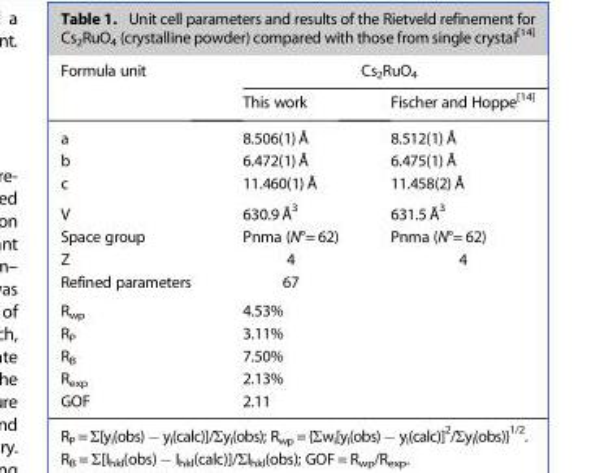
<table><thead><tr><td rowspan="2">Formula unit</td><td colspan="2">Cs<sub>2</sub>RuO<sub>4</sub></td></tr><tr><td>This work</td><td>Fischer and Hoppe[14]</td></tr></thead><tbody><tr><td>a</td><td>8.506(1) Å</td><td>8.512(1) Å</td></tr><tr><td>b</td><td>6.472(1) Å</td><td>6.475(1) Å</td></tr><tr><td>c</td><td>11.460(1) Å</td><td>11.458(2) Å</td></tr><tr><td>V</td><td>630.9 Å<sup>3</sup></td><td>631.5 Å<sup>3</sup></td></tr><tr><td>Space group</td><td>Pnma (N°= 62)</td><td>Pnma (N°= 62)</td></tr><tr><td>Z</td><td>4</td><td>4</td></tr><tr><td>Refined parameters</td><td>67</td><td></td></tr><tr><td>R<sub>wp</sub></td><td>4.53%</td><td></td></tr><tr><td>R<sub>P</sub></td><td>3.11%</td><td></td></tr><tr><td>R<sub>B</sub></td><td>7.50%</td><td></td></tr><tr><td>R<sub>exp</sub></td><td>2.13%</td><td></td></tr><tr><td>GOF</td><td>2.11</td><td></td></tr></tbody></table>